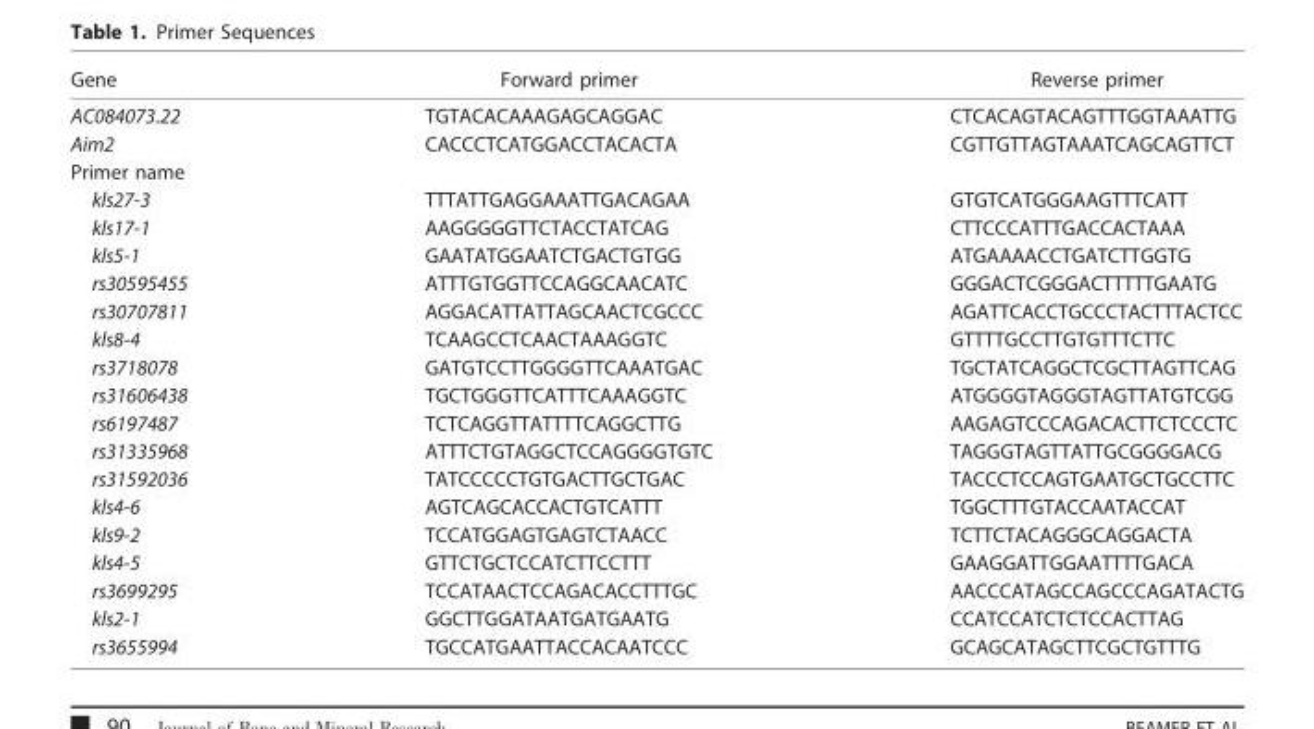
<table><thead><tr><td>Gene</td><td>Forward primer</td><td>Reverse primer</td></tr></thead><tbody><tr><td>AC084073.22</td><td>TGTACACAAAGAGCAGGAC</td><td>CTCACAGTACAGTTTGGTAAATTG</td></tr><tr><td>Aim2</td><td>CACCCTCATGGACCTACACTA</td><td>CGTTGTTAGTAAATCAGCAGTTCT</td></tr><tr><td colspan="3">Primer name</td></tr><tr><td>kls27-3</td><td>TTTATTGAGGAAATTGACAGAA</td><td>GTGTCATGGGAAGTTTCATT</td></tr><tr><td>kls17-1</td><td>AAGGGGGTTCTACCTATCAG</td><td>CTTCCCATTTGACCACTAAA</td></tr><tr><td>kls5-1</td><td>GAATATGGAATCTGACTGTGG</td><td>ATGAAAACCTGATCTTGGTG</td></tr><tr><td>rs30595455</td><td>ATTTGTGGTTCCAGGCAACATC</td><td>GGGACTCGGGACTTTTTGAATG</td></tr><tr><td>rs30707811</td><td>AGGACATTATTAGCAACTCGCCC</td><td>AGATTCACCTGCCCTACTTTACTCC</td></tr><tr><td>kls8-4</td><td>TCAAGCCTCAACTAAAGGTC</td><td>GTTTTGCCTTGTGTTTCTTC</td></tr><tr><td>rs3718078</td><td>GATGTCCTTGGGGTTCAAATGAC</td><td>TGCTATCAGGCTCGCTTAGTTCAG</td></tr><tr><td>rs31606438</td><td>TGCTGGGTTCATTTCAAAGGTC</td><td>ATGGGGTAGGGTAGTTATGTCGG</td></tr><tr><td>rs6197487</td><td>TCTCAGGTTATTTTCAGGCTTG</td><td>AAGAGTCCCAGACACTTCTCCCTC</td></tr><tr><td>rs31335968</td><td>ATTTCTGTAGGCTCCAGGGGTGTC</td><td>TAGGGTAGTTATTGCGGGGACG</td></tr><tr><td>rs31592036</td><td>TATCCCCCTGTGACTTGCTGAC</td><td>TACCCTCCAGTGAATGCTGCCTTC</td></tr><tr><td>kls4-6</td><td>AGTCAGCACCACTGTCATTT</td><td>TGGCTTTGTACCAATACCAT</td></tr><tr><td>kls9-2</td><td>TCCATGGAGTGAGTCTAACC</td><td>TCTTCTACAGGGCAGGACTA</td></tr><tr><td>kls4-5</td><td>GTTCTGCTCCATCTTCCTTT</td><td>GAAGGATTGGAATTTTGACA</td></tr><tr><td>rs3699295</td><td>TCCATAACTCCAGACACCTTTGC</td><td>AACCCATAGCCAGCCCAGATACTG</td></tr><tr><td>kls2-1</td><td>GGCTTGGATAATGATGAATG</td><td>CCATCCATCTCTCCACTTAG</td></tr><tr><td>rs3655994</td><td>TGCCATGAATTACCACAATCCC</td><td>GCAGCATAGCTTCGCTGTTTG</td></tr></tbody></table>